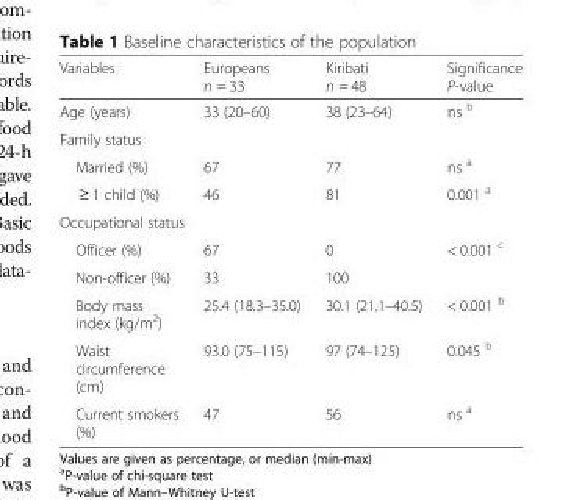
<table><thead><tr><td>Variables</td><td>Europeans n = 33</td><td>Kiribati n = 48</td><td>Significance P-value</td></tr></thead><tbody><tr><td>Age (years)</td><td>33 (20–60)</td><td>38 (23–64)</td><td>ns <sup>b</sup></td></tr><tr><td colspan="4">Family status</td></tr><tr><td>Married (%)</td><td>67</td><td>77</td><td>ns <sup>a</sup></td></tr><tr><td>≥ 1 child (%)</td><td>46</td><td>81</td><td>0.001 <sup>a</sup></td></tr><tr><td colspan="4">Occupational status</td></tr><tr><td>Officer (%)</td><td>67</td><td>0</td><td>&lt; 0.001 <sup>c</sup></td></tr><tr><td>Non-officer (%)</td><td>33</td><td>100</td><td></td></tr><tr><td>Body mass index (kg/m<sup>2</sup>)</td><td>25.4 (18.3–35.0)</td><td>30.1 (21.1–40.5)</td><td>&lt; 0.001 <sup>b</sup></td></tr><tr><td>Waist circumference (cm)</td><td>93.0 (75–115)</td><td>97 (74–125)</td><td>0.045 <sup>b</sup></td></tr><tr><td>Current smokers (%)</td><td>47</td><td>56</td><td>ns <sup>a</sup></td></tr></tbody></table>